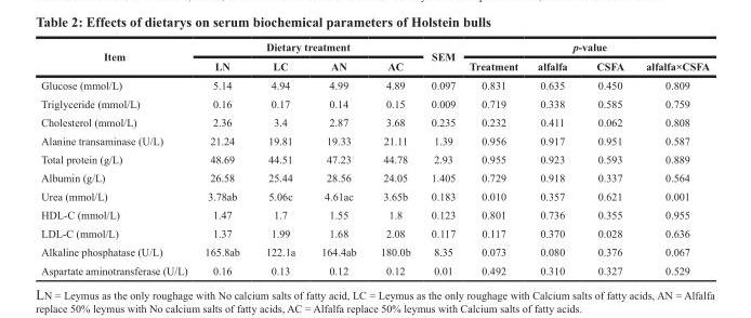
<table><thead><tr><td rowspan="2">Item</td><td colspan="4">Dietary treatment</td><td rowspan="2">SEM</td><td colspan="4">p-value</td></tr><tr><td>LN</td><td>LC</td><td>AN</td><td>AC</td><td>Treatment</td><td>alfalfa</td><td>CSFA</td><td>alfalfa×CSFA</td></tr></thead><tbody><tr><td>Glucose (mmol/L)</td><td>5.14</td><td>4.94</td><td>4.99</td><td>4.89</td><td>0.097</td><td>0.831</td><td>0.635</td><td>0.450</td><td>0.809</td></tr><tr><td>Triglyceride (mmol/L)</td><td>0.16</td><td>0.17</td><td>0.14</td><td>0.15</td><td>0.009</td><td>0.719</td><td>0.338</td><td>0.585</td><td>0.759</td></tr><tr><td>Cholesterol (mmol/L)</td><td>2.36</td><td>3.4</td><td>2.87</td><td>3.68</td><td>0.235</td><td>0.232</td><td>0.411</td><td>0.062</td><td>0.808</td></tr><tr><td>Alanine transaminase (U/L)</td><td>21.24</td><td>19.81</td><td>19.33</td><td>21.11</td><td>1.39</td><td>0.956</td><td>0.917</td><td>0.951</td><td>0.587</td></tr><tr><td>Total protein (g/L)</td><td>48.69</td><td>44.51</td><td>47.23</td><td>44.78</td><td>2.93</td><td>0.955</td><td>0.923</td><td>0.593</td><td>0.889</td></tr><tr><td>Albumin (g/L)</td><td>26.58</td><td>25.44</td><td>28.56</td><td>24.05</td><td>1.405</td><td>0.729</td><td>0.918</td><td>0.337</td><td>0.564</td></tr><tr><td>Urea (mmol/L)</td><td>3.78ab</td><td>5.06c</td><td>4.61ac</td><td>3.65b</td><td>0.183</td><td>0.010</td><td>0.357</td><td>0.621</td><td>0.001</td></tr><tr><td>HDL-C (mmol/L)</td><td>1.47</td><td>1.7</td><td>1.55</td><td>1.8</td><td>0.123</td><td>0.801</td><td>0.736</td><td>0.355</td><td>0.955</td></tr><tr><td>LDL-C (mmol/L)</td><td>1.37</td><td>1.99</td><td>1.68</td><td>2.08</td><td>0.117</td><td>0.117</td><td>0.370</td><td>0.028</td><td>0.636</td></tr><tr><td>Alkaline phosphatase (U/L)</td><td>165.8ab</td><td>122.1a</td><td>164.4ab</td><td>180.0b</td><td>8.35</td><td>0.073</td><td>0.080</td><td>0.376</td><td>0.067</td></tr><tr><td>Aspartate aminotransferase (U/L)</td><td>0.16</td><td>0.13</td><td>0.12</td><td>0.12</td><td>0.01</td><td>0.492</td><td>0.310</td><td>0.327</td><td>0.529</td></tr></tbody></table>